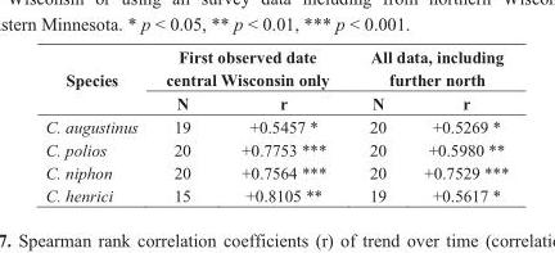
<table><thead><tr><td rowspan="2">Species</td><td colspan="2">First observed date central Wisconsin only</td><td colspan="2">All data, including further north</td></tr><tr><td>N</td><td>r</td><td>N</td><td>r</td></tr></thead><tbody><tr><td>C. augustinus</td><td>19</td><td>+0.5457 *</td><td>20</td><td>+0.5269 *</td></tr><tr><td>C. polios</td><td>20</td><td>+0.7753 ***</td><td>20</td><td>+0.5980 **</td></tr><tr><td>C. niphon</td><td>20</td><td>+0.7564 ***</td><td>20</td><td>+0.7529 ***</td></tr><tr><td>C. henrici</td><td>15</td><td>+0.8105 **</td><td>19</td><td>+0.5617 *</td></tr></tbody></table>